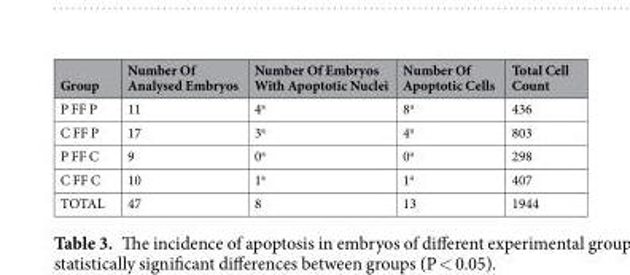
<table><thead><tr><td>Group</td><td>Number Of Analysed Embryos</td><td>Number Of Embryos With Apoptotic Nuclei</td><td>Number Of Apoptotic Cells</td><td>Total Cell Count</td></tr></thead><tbody><tr><td>P FF P</td><td>11</td><td>4<sup>a</sup></td><td>8<sup>a</sup></td><td>436</td></tr><tr><td>C FF P</td><td>17</td><td>3<sup>a</sup></td><td>4<sup>a</sup></td><td>803</td></tr><tr><td>P FF C</td><td>9</td><td>0<sup>a</sup></td><td>0<sup>a</sup></td><td>298</td></tr><tr><td>C FF C</td><td>10</td><td>1<sup>a</sup></td><td>1<sup>a</sup></td><td>407</td></tr><tr><td>TOTAL</td><td>47</td><td>8</td><td>13</td><td>1944</td></tr></tbody></table>